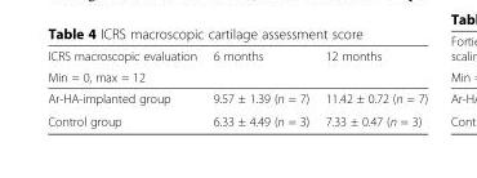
<table><thead><tr><td rowspan="2">ICRS macroscopic evaluation Min = 0, max = 12</td><td rowspan="2">6 months</td><td rowspan="2">12 months</td></tr><tr></tr></thead><tbody><tr><td>Ar-HA-implanted group</td><td>9.57 ± 1.39 (n = 7)</td><td>11.42 ± 0.72 (n = 7)</td></tr><tr><td>Control group</td><td>6.33 ± 4.49 (n = 3)</td><td>7.33 ± 0.47 (n = 3)</td></tr></tbody></table>